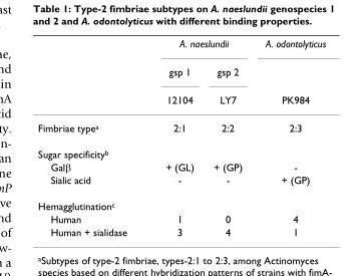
<table><thead><tr><td rowspan="3"></td><td colspan="2">A. naeslundii</td><td rowspan="3">A. odontolyticus PK984</td></tr><tr><td rowspan="2">gsp 1 12104</td><td rowspan="2">gsp 2 LY7</td></tr><tr></tr></thead><tbody><tr><td>Fimbriae typea</td><td>2:1</td><td>2:2</td><td>2:3</td></tr><tr><td colspan="4">Sugar specificityb</td></tr><tr><td>Galβ</td><td>+ (GL)</td><td>+ (GP)</td><td>-</td></tr><tr><td>Sialic acid</td><td>-</td><td>-</td><td>+ (GP)</td></tr><tr><td colspan="4">Hemagglutinationc</td></tr><tr><td>Human</td><td>1</td><td>0</td><td>4</td></tr><tr><td>Human + sialidase</td><td>3</td><td>4</td><td>1</td></tr></tbody></table>